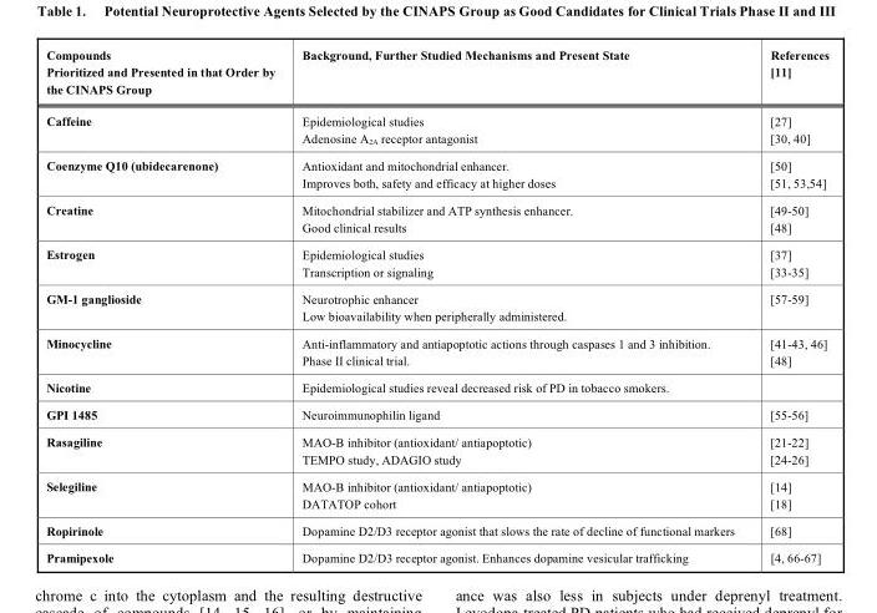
<table><thead><tr><td>Compounds Prioritized and Presented in that Order by the CINAPS Group</td><td>Background, Further Studied Mechanisms and Present State</td><td>References [11]</td></tr></thead><tbody><tr><td>Caffeine</td><td>Epidemiological studies Adenosine A<sub>2A</sub> receptor antagonist</td><td>[27] [30, 40]</td></tr><tr><td>Coenzyme Q10 (ubidecarenone)</td><td>Antioxidant and mitochondrial enhancer. Improves both, safety and efficacy at higher doses</td><td>[50] [51, 53,54]</td></tr><tr><td>Creatine</td><td>Mitochondrial stabilizer and ATP synthesis enhancer. Good clinical results</td><td>[49-50] [48]</td></tr><tr><td>Estrogen</td><td>Epidemiological studies Transcription or signaling</td><td>[37] [33-35]</td></tr><tr><td>GM-1 ganglioside</td><td>Neurotrophic enhancer Low bioavailability when peripherally administered.</td><td>[57-59]</td></tr><tr><td>Minocycline</td><td>Anti-inflammatory and antiapoptotic actions through caspases 1 and 3 inhibition. Phase II clinical trial.</td><td>[41-43, 46] [48]</td></tr><tr><td>Nicotine</td><td>Epidemiological studies reveal decreased risk of PD in tobacco smokers.</td><td></td></tr><tr><td>GPI 1485</td><td>Neuroimmunophilin ligand</td><td>[55-56]</td></tr><tr><td>Rasagiline</td><td>MAO-B inhibitor (antioxidant/ antiapoptotic) TEMPO study, ADAGIO study</td><td>[21-22] [24-26]</td></tr><tr><td>Selegiline</td><td>MAO-B inhibitor (antioxidant/ antiapoptotic) DATATOP cohort</td><td>[14] [18]</td></tr><tr><td>Ropirinole</td><td>Dopamine D2/D3 receptor agonist that slows the rate of decline of functional markers</td><td>[68]</td></tr><tr><td>Pramipexole</td><td>Dopamine D2/D3 receptor agonist. Enhances dopamine vesicular trafficking</td><td>[4, 66-67]</td></tr></tbody></table>